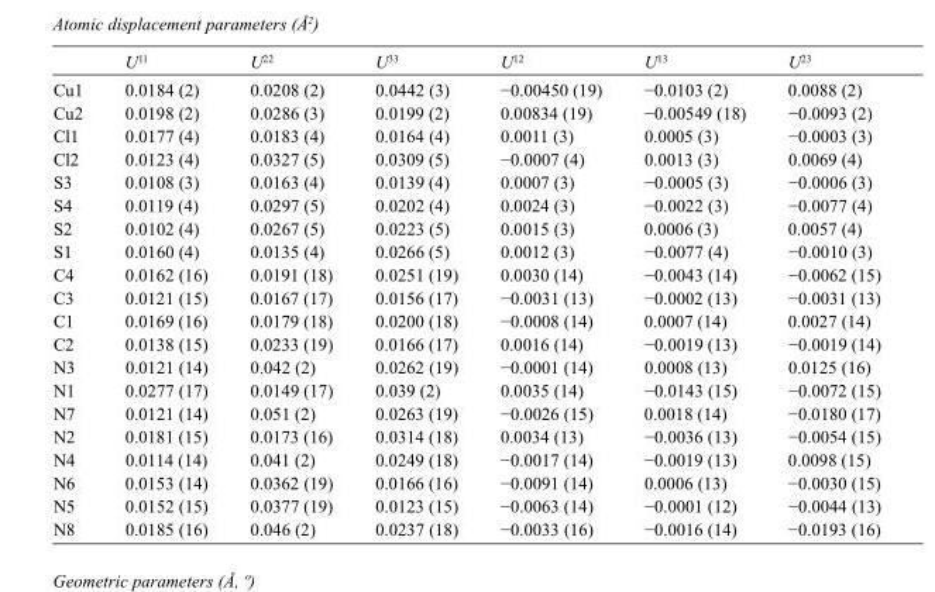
<table><thead><tr><td></td><td>U<sup>11</sup></td><td>U<sup>22</sup></td><td>U<sup>33</sup></td><td>U<sup>12</sup></td><td>U<sup>13</sup></td><td>U<sup>23</sup></td></tr></thead><tbody><tr><td>Cu1</td><td>0.0184 (2)</td><td>0.0208 (2)</td><td>0.0442 (3)</td><td>−0.00450 (19)</td><td>−0.0103 (2)</td><td>0.0088 (2)</td></tr><tr><td>Cu2</td><td>0.0198 (2)</td><td>0.0286 (3)</td><td>0.0199 (2)</td><td>0.00834 (19)</td><td>−0.00549 (18)</td><td>−0.0093 (2)</td></tr><tr><td>Cl1</td><td>0.0177 (4)</td><td>0.0183 (4)</td><td>0.0164 (4)</td><td>0.0011 (3)</td><td>0.0005 (3)</td><td>−0.0003 (3)</td></tr><tr><td>Cl2</td><td>0.0123 (4)</td><td>0.0327 (5)</td><td>0.0309 (5)</td><td>−0.0007 (4)</td><td>0.0013 (3)</td><td>0.0069 (4)</td></tr><tr><td>S3</td><td>0.0108 (3)</td><td>0.0163 (4)</td><td>0.0139 (4)</td><td>0.0007 (3)</td><td>−0.0005 (3)</td><td>−0.0006 (3)</td></tr><tr><td>S4</td><td>0.0119 (4)</td><td>0.0297 (5)</td><td>0.0202 (4)</td><td>0.0024 (3)</td><td>−0.0022 (3)</td><td>−0.0077 (4)</td></tr><tr><td>S2</td><td>0.0102 (4)</td><td>0.0267 (5)</td><td>0.0223 (5)</td><td>0.0015 (3)</td><td>0.0006 (3)</td><td>0.0057 (4)</td></tr><tr><td>S1</td><td>0.0160 (4)</td><td>0.0135 (4)</td><td>0.0266 (5)</td><td>0.0012 (3)</td><td>−0.0077 (4)</td><td>−0.0010 (3)</td></tr><tr><td>C4</td><td>0.0162 (16)</td><td>0.0191 (18)</td><td>0.0251 (19)</td><td>0.0030 (14)</td><td>−0.0043 (14)</td><td>−0.0062 (15)</td></tr><tr><td>C3</td><td>0.0121 (15)</td><td>0.0167 (17)</td><td>0.0156 (17)</td><td>−0.0031 (13)</td><td>−0.0002 (13)</td><td>−0.0031 (13)</td></tr><tr><td>C1</td><td>0.0169 (16)</td><td>0.0179 (18)</td><td>0.0200 (18)</td><td>−0.0008 (14)</td><td>0.0007 (14)</td><td>0.0027 (14)</td></tr><tr><td>C2</td><td>0.0138 (15)</td><td>0.0233 (19)</td><td>0.0166 (17)</td><td>0.0016 (14)</td><td>−0.0019 (13)</td><td>−0.0019 (14)</td></tr><tr><td>N3</td><td>0.0121 (14)</td><td>0.042 (2)</td><td>0.0262 (19)</td><td>−0.0001 (14)</td><td>0.0008 (13)</td><td>0.0125 (16)</td></tr><tr><td>N1</td><td>0.0277 (17)</td><td>0.0149 (17)</td><td>0.039 (2)</td><td>0.0035 (14)</td><td>−0.0143 (15)</td><td>−0.0072 (15)</td></tr><tr><td>N7</td><td>0.0121 (14)</td><td>0.051 (2)</td><td>0.0263 (19)</td><td>−0.0026 (15)</td><td>0.0018 (14)</td><td>−0.0180 (17)</td></tr><tr><td>N2</td><td>0.0181 (15)</td><td>0.0173 (16)</td><td>0.0314 (18)</td><td>0.0034 (13)</td><td>−0.0036 (13)</td><td>−0.0054 (15)</td></tr><tr><td>N4</td><td>0.0114 (14)</td><td>0.041 (2)</td><td>0.0249 (18)</td><td>−0.0017 (14)</td><td>−0.0019 (13)</td><td>0.0098 (15)</td></tr><tr><td>N6</td><td>0.0153 (14)</td><td>0.0362 (19)</td><td>0.0166 (16)</td><td>−0.0091 (14)</td><td>0.0006 (13)</td><td>−0.0030 (15)</td></tr><tr><td>N5</td><td>0.0152 (15)</td><td>0.0377 (19)</td><td>0.0123 (15)</td><td>−0.0063 (14)</td><td>−0.0001 (12)</td><td>−0.0044 (13)</td></tr><tr><td>N8</td><td>0.0185 (16)</td><td>0.046 (2)</td><td>0.0237 (18)</td><td>−0.0033 (16)</td><td>−0.0016 (14)</td><td>−0.0193 (16)</td></tr></tbody></table>